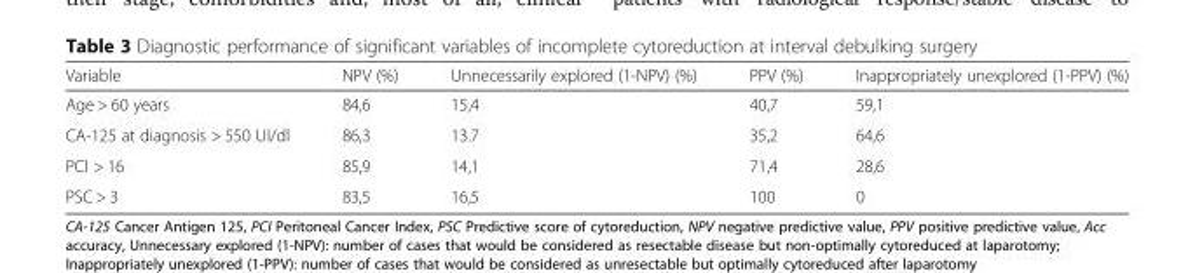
<table><thead><tr><td>Variable</td><td>NPV (%)</td><td>Unnecessarily explored (1-NPV) (%)</td><td>PPV (%)</td><td>Inappropriately unexplored (1-PPV) (%)</td></tr></thead><tbody><tr><td>Age &gt; 60 years</td><td>84,6</td><td>15,4</td><td>40,7</td><td>59,1</td></tr><tr><td>CA-125 at diagnosis &gt; 550 UI/dl</td><td>86,3</td><td>13.7</td><td>35,2</td><td>64,6</td></tr><tr><td>PCI &gt; 16</td><td>85,9</td><td>14,1</td><td>71,4</td><td>28,6</td></tr><tr><td>PSC &gt; 3</td><td>83,5</td><td>16,5</td><td>100</td><td>0</td></tr></tbody></table>